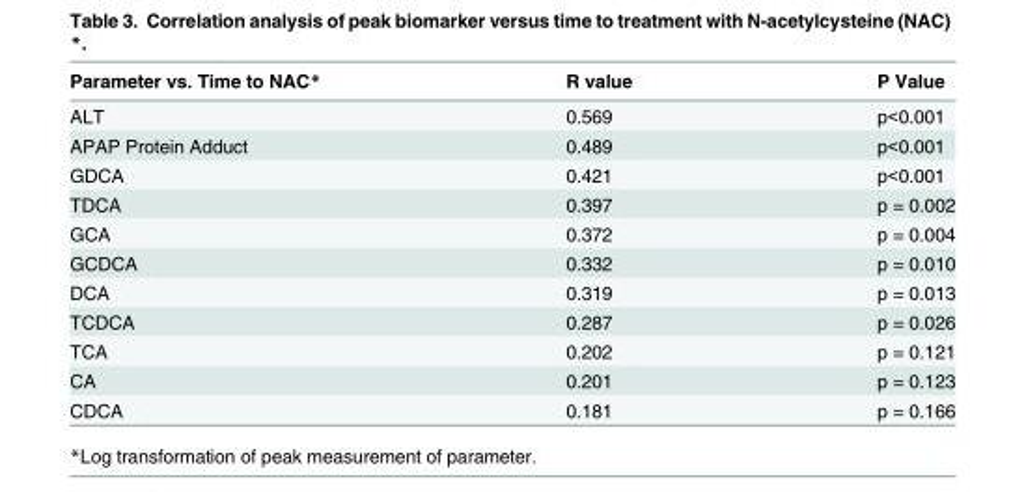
<table><thead><tr><td>Parameter vs. Time to NAC*</td><td>R value</td><td>P Value</td></tr></thead><tbody><tr><td>ALT</td><td>0.569</td><td>p&lt;0.001</td></tr><tr><td>APAP Protein Adduct</td><td>0.489</td><td>p&lt;0.001</td></tr><tr><td>GDCA</td><td>0.421</td><td>p&lt;0.001</td></tr><tr><td>TDCA</td><td>0.397</td><td>p = 0.002</td></tr><tr><td>GCA</td><td>0.372</td><td>p = 0.004</td></tr><tr><td>GCDCA</td><td>0.332</td><td>p = 0.010</td></tr><tr><td>DCA</td><td>0.319</td><td>p = 0.013</td></tr><tr><td>TCDCA</td><td>0.287</td><td>p = 0.026</td></tr><tr><td>TCA</td><td>0.202</td><td>p = 0.121</td></tr><tr><td>CA</td><td>0.201</td><td>p = 0.123</td></tr><tr><td>CDCA</td><td>0.181</td><td>p = 0.166</td></tr></tbody></table>